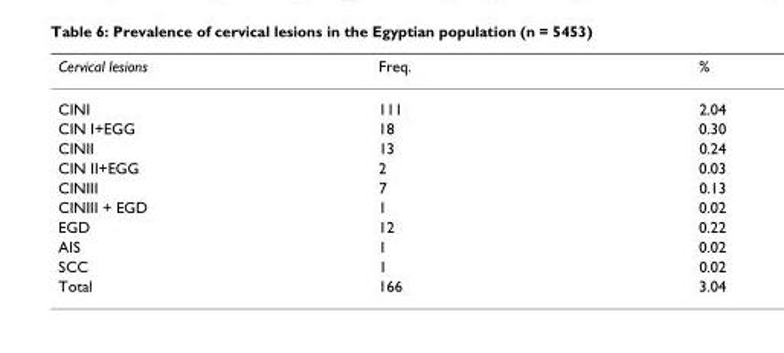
<table><thead><tr><td>Cervical lesions</td><td>Freq.</td><td>%</td></tr></thead><tbody><tr><td>CINI</td><td>111</td><td>2.04</td></tr><tr><td>CIN I+EGG</td><td>18</td><td>0.30</td></tr><tr><td>CINII</td><td>13</td><td>0.24</td></tr><tr><td>CIN II+EGG</td><td>2</td><td>0.03</td></tr><tr><td>CINIII</td><td>7</td><td>0.13</td></tr><tr><td>CINIII + EGD</td><td>1</td><td>0.02</td></tr><tr><td>EGD</td><td>12</td><td>0.22</td></tr><tr><td>AIS</td><td>1</td><td>0.02</td></tr><tr><td>SCC</td><td>1</td><td>0.02</td></tr><tr><td>Total</td><td>166</td><td>3.04</td></tr></tbody></table>